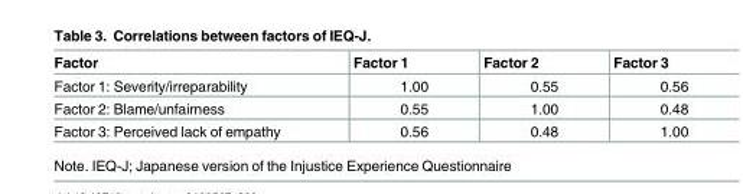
<table><thead><tr><td>Factor</td><td>Factor 1</td><td>Factor 2</td><td>Factor 3</td></tr></thead><tbody><tr><td>Factor 1: Severity/irreparability</td><td>1.00</td><td>0.55</td><td>0.56</td></tr><tr><td>Factor 2: Blame/unfairness</td><td>0.55</td><td>1.00</td><td>0.48</td></tr><tr><td>Factor 3: Perceived lack of empathy</td><td>0.56</td><td>0.48</td><td>1.00</td></tr></tbody></table>